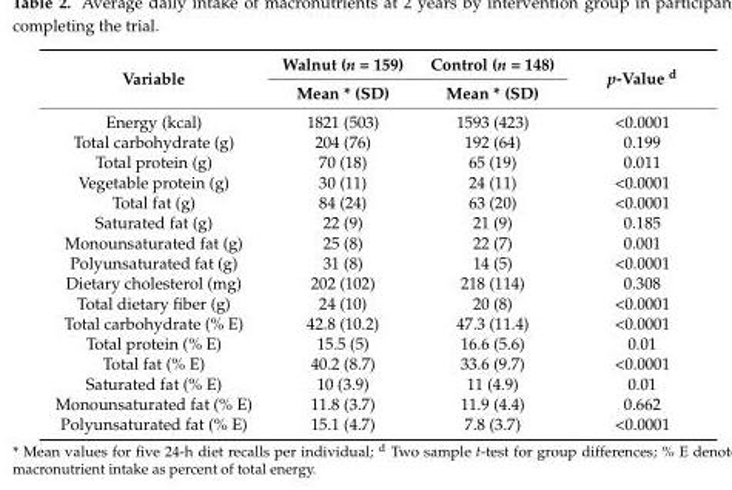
<table><thead><tr><td rowspan="2">Variable</td><td rowspan="2">Walnut (n = 159) Mean * (SD)</td><td rowspan="2">Control (n = 148) Mean * (SD)</td><td rowspan="2">p-Value <sup>d</sup></td></tr><tr></tr></thead><tbody><tr><td>Energy (kcal)</td><td>1821 (503)</td><td>1593 (423)</td><td>&lt;0.0001</td></tr><tr><td>Total carbohydrate (g)</td><td>204 (76)</td><td>192 (64)</td><td>0.199</td></tr><tr><td>Total protein (g)</td><td>70 (18)</td><td>65 (19)</td><td>0.011</td></tr><tr><td>Vegetable protein (g)</td><td>30 (11)</td><td>24 (11)</td><td>&lt;0.0001</td></tr><tr><td>Total fat (g)</td><td>84 (24)</td><td>63 (20)</td><td>&lt;0.0001</td></tr><tr><td>Saturated fat (g)</td><td>22 (9)</td><td>21 (9)</td><td>0.185</td></tr><tr><td>Monounsaturated fat (g)</td><td>25 (8)</td><td>22 (7)</td><td>0.001</td></tr><tr><td>Polyunsaturated fat (g)</td><td>31 (8)</td><td>14 (5)</td><td>&lt;0.0001</td></tr><tr><td>Dietary cholesterol (mg)</td><td>202 (102)</td><td>218 (114)</td><td>0.308</td></tr><tr><td>Total dietary fiber (g)</td><td>24 (10)</td><td>20 (8)</td><td>&lt;0.0001</td></tr><tr><td>Total carbohydrate (% E)</td><td>42.8 (10.2)</td><td>47.3 (11.4)</td><td>&lt;0.0001</td></tr><tr><td>Total protein (% E)</td><td>15.5 (5)</td><td>16.6 (5.6)</td><td>0.01</td></tr><tr><td>Total fat (% E)</td><td>40.2 (8.7)</td><td>33.6 (9.7)</td><td>&lt;0.0001</td></tr><tr><td>Saturated fat (% E)</td><td>10 (3.9)</td><td>11 (4.9)</td><td>0.01</td></tr><tr><td>Monounsaturated fat (% E)</td><td>11.8 (3.7)</td><td>11.9 (4.4)</td><td>0.662</td></tr><tr><td>Polyunsaturated fat (% E)</td><td>15.1 (4.7)</td><td>7.8 (3.7)</td><td>&lt;0.0001</td></tr></tbody></table>